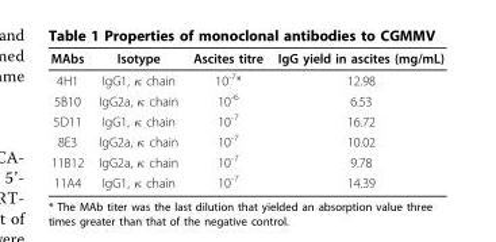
<table><thead><tr><td>MAbs</td><td>Isotype</td><td>Ascites titre</td><td>IgG yield in ascites (mg/mL)</td></tr></thead><tbody><tr><td>4H1</td><td>IgG1, κ chain</td><td>10<sup>-7</sup>*</td><td>12.98</td></tr><tr><td>5B10</td><td>IgG2a, κ chain</td><td>10<sup>-6</sup></td><td>6.53</td></tr><tr><td>5D11</td><td>IgG1, κ chain</td><td>10<sup>-7</sup></td><td>16.72</td></tr><tr><td>8E3</td><td>IgG2a, κ chain</td><td>10<sup>-7</sup></td><td>10.02</td></tr><tr><td>11B12</td><td>IgG2a, κ chain</td><td>10<sup>-7</sup></td><td>9.78</td></tr><tr><td>11A4</td><td>IgG1, κ chain</td><td>10<sup>-7</sup></td><td>14.39</td></tr></tbody></table>